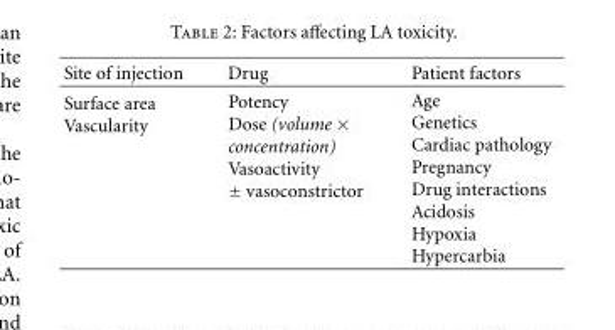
<table><thead><tr><td>Site of injection</td><td>Drug</td><td>Patient factors</td></tr></thead><tbody><tr><td>Surface area Vascularity</td><td>Potency Dose (volume × concentration) Vasoactivity ± vasoconstrictor</td><td>Age Genetics Cardiac pathology Pregnancy Drug interactions Acidosis Hypoxia Hypercarbia</td></tr></tbody></table>